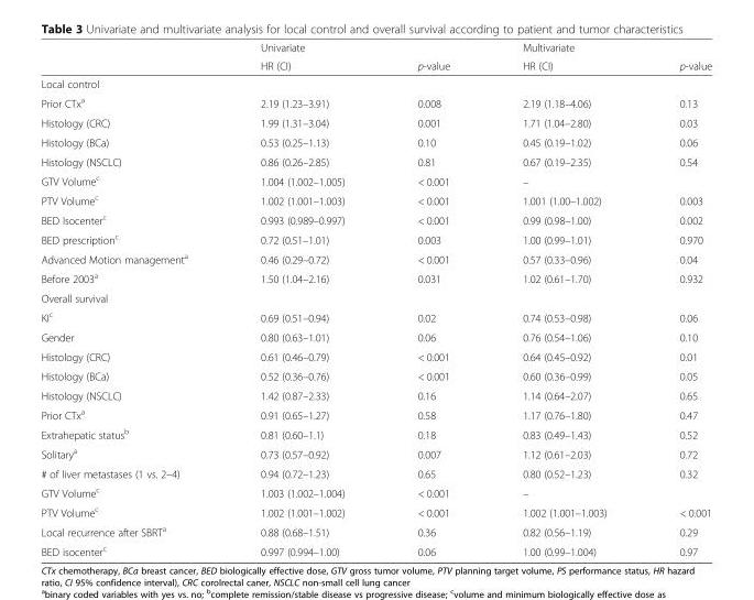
<table><thead><tr><td rowspan="2"></td><td rowspan="2">Univariate HR (CI)</td><td rowspan="2">p-value</td><td rowspan="2">Multivariate HR (CI)</td><td rowspan="2">p-value</td></tr><tr></tr></thead><tbody><tr><td colspan="5">Local control</td></tr><tr><td>Prior CTx<sup>a</sup></td><td>2.19 (1.23–3.91)</td><td>0.008</td><td>2.19 (1.18–4.06)</td><td>0.13</td></tr><tr><td>Histology (CRC)</td><td>1.99 (1.31–3.04)</td><td>0.001</td><td>1.71 (1.04–2.80)</td><td>0.03</td></tr><tr><td>Histology (BCa)</td><td>0.53 (0.25–1.13)</td><td>0.10</td><td>0.45 (0.19–1.02)</td><td>0.06</td></tr><tr><td>Histology (NSCLC)</td><td>0.86 (0.26–2.85)</td><td>0.81</td><td>0.67 (0.19–2.35)</td><td>0.54</td></tr><tr><td>GTV Volume<sup>c</sup></td><td>1.004 (1.002–1.005)</td><td>&lt; 0.001</td><td>–</td><td></td></tr><tr><td>PTV Volume<sup>c</sup></td><td>1.002 (1.001–1.003)</td><td>&lt; 0.001</td><td>1.001 (1.00–1.002)</td><td>0.003</td></tr><tr><td>BED Isocenter<sup>c</sup></td><td>0.993 (0.989–0.997)</td><td>&lt; 0.001</td><td>0.99 (0.98–1.00)</td><td>0.002</td></tr><tr><td>BED prescription<sup>c</sup></td><td>0.72 (0.51–1.01)</td><td>0.003</td><td>1.00 (0.99–1.01)</td><td>0.970</td></tr><tr><td>Advanced Motion management<sup>a</sup></td><td>0.46 (0.29–0.72)</td><td>&lt; 0.001</td><td>0.57 (0.33–0.96)</td><td>0.04</td></tr><tr><td>Before 2003<sup>a</sup></td><td>1.50 (1.04–2.16)</td><td>0.031</td><td>1.02 (0.61–1.70)</td><td>0.932</td></tr><tr><td colspan="5">Overall survival</td></tr><tr><td>KI<sup>c</sup></td><td>0.69 (0.51–0.94)</td><td>0.02</td><td>0.74 (0.53–0.98)</td><td>0.06</td></tr><tr><td>Gender</td><td>0.80 (0.63–1.01)</td><td>0.06</td><td>0.76 (0.54–1.06)</td><td>0.10</td></tr><tr><td>Histology (CRC)</td><td>0.61 (0.46–0.79)</td><td>&lt; 0.001</td><td>0.64 (0.45–0.92)</td><td>0.01</td></tr><tr><td>Histology (BCa)</td><td>0.52 (0.36–0.76)</td><td>&lt; 0.001</td><td>0.60 (0.36–0.99)</td><td>0.05</td></tr><tr><td>Histology (NSCLC)</td><td>1.42 (0.87–2.33)</td><td>0.16</td><td>1.14 (0.64–2.07)</td><td>0.65</td></tr><tr><td>Prior CTx<sup>a</sup></td><td>0.91 (0.65–1.27)</td><td>0.58</td><td>1.17 (0.76–1.80)</td><td>0.47</td></tr><tr><td>Extrahepatic status<sup>b</sup></td><td>0.81 (0.60–1.1)</td><td>0.18</td><td>0.83 (0.49–1.43)</td><td>0.52</td></tr><tr><td>Solitary<sup>a</sup></td><td>0.73 (0.57–0.92)</td><td>0.007</td><td>1.12 (0.61–2.03)</td><td>0.72</td></tr><tr><td># of liver metastases (1 vs. 2–4)</td><td>0.94 (0.72–1.23)</td><td>0.65</td><td>0.80 (0.52–1.23)</td><td>0.32</td></tr><tr><td>GTV Volume<sup>c</sup></td><td>1.003 (1.002–1.004)</td><td>&lt; 0.001</td><td>–</td><td></td></tr><tr><td>PTV Volume<sup>c</sup></td><td>1.002 (1.001–1.002)</td><td>&lt; 0.001</td><td>1.002 (1.001–1.003)</td><td>&lt; 0.001</td></tr><tr><td>Local recurrence after SBRT<sup>a</sup></td><td>0.88 (0.68–1.51)</td><td>0.36</td><td>0.82 (0.56–1.19)</td><td>0.29</td></tr><tr><td>BED isocenter<sup>c</sup></td><td>0.997 (0.994–1.00)</td><td>0.06</td><td>1.00 (0.99–1.004)</td><td>0.97</td></tr></tbody></table>